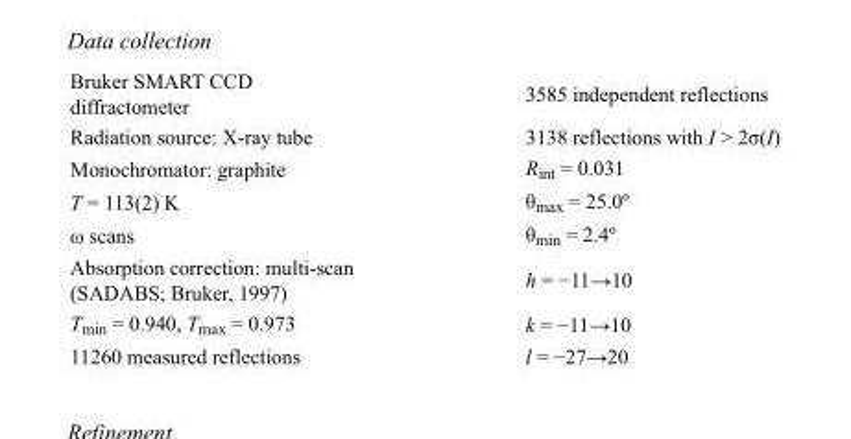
<table><tbody><tr><td>Bruker SMART CCD diffractometer</td><td>3585 independent reflections</td></tr><tr><td>Radiation source: X-ray tube</td><td>3138 reflections with I &gt; 2σ(I)</td></tr><tr><td>Monochromator: graphite</td><td>R<sub>int</sub> = 0.031</td></tr><tr><td>T = 113(2) K</td><td>θ<sub>max</sub> = 25.0º</td></tr><tr><td>ω scans</td><td>θ<sub>min</sub> = 2.4º</td></tr><tr><td>Absorption correction: multi-scan (SADABS; Bruker, 1997)</td><td>h = −11→10</td></tr><tr><td>T<sub>min</sub> = 0.940, T<sub>max</sub> = 0.973</td><td>k = −11→10</td></tr><tr><td>11260 measured reflections</td><td>l = −27→20</td></tr></tbody></table>